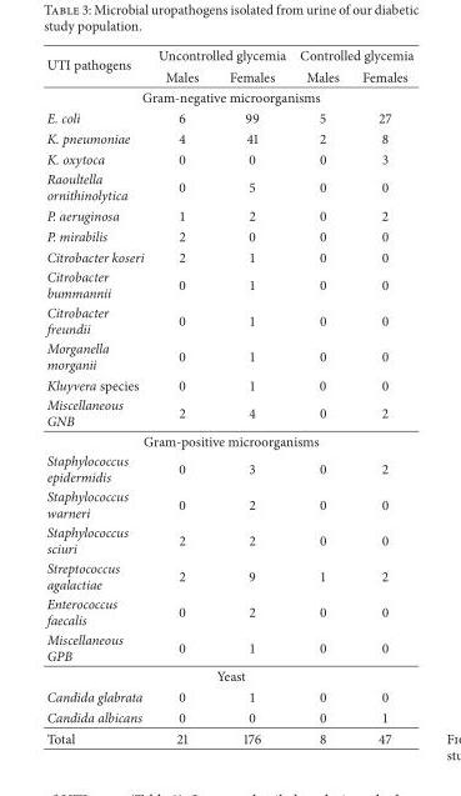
<table><thead><tr><td rowspan="2">UTI pathogens</td><td colspan="2">Uncontrolled glycemia</td><td colspan="2">Controlled glycemia</td></tr><tr><td>Males</td><td>Females</td><td>Males</td><td>Females</td></tr></thead><tbody><tr><td colspan="5">Gram-negative microorganisms</td></tr><tr><td>E. coli</td><td>6</td><td>99</td><td>5</td><td>27</td></tr><tr><td>K. pneumoniae</td><td>4</td><td>41</td><td>2</td><td>8</td></tr><tr><td>K. oxytoca</td><td>0</td><td>0</td><td>0</td><td>3</td></tr><tr><td>Raoultella ornithinolytica</td><td>0</td><td>5</td><td>0</td><td>0</td></tr><tr><td>P. aeruginosa</td><td>1</td><td>2</td><td>0</td><td>2</td></tr><tr><td>P. mirabilis</td><td>2</td><td>0</td><td>0</td><td>0</td></tr><tr><td>Citrobacter koseri</td><td>2</td><td>1</td><td>0</td><td>0</td></tr><tr><td>Citrobacter bummannii</td><td>0</td><td>1</td><td>0</td><td>0</td></tr><tr><td>Citrobacter freundii</td><td>0</td><td>1</td><td>0</td><td>0</td></tr><tr><td>Morganella morganii</td><td>0</td><td>1</td><td>0</td><td>0</td></tr><tr><td>Kluyvera species</td><td>0</td><td>1</td><td>0</td><td>0</td></tr><tr><td>Miscellaneous GNB</td><td>2</td><td>4</td><td>0</td><td>2</td></tr><tr><td colspan="5">Gram-positive microorganisms</td></tr><tr><td>Staphylococcus epidermidis</td><td>0</td><td>3</td><td>0</td><td>2</td></tr><tr><td>Staphylococcus warneri</td><td>0</td><td>2</td><td>0</td><td>0</td></tr><tr><td>Staphylococcus sciuri</td><td>2</td><td>2</td><td>0</td><td>0</td></tr><tr><td>Streptococcus agalactiae</td><td>2</td><td>9</td><td>1</td><td>2</td></tr><tr><td>Enterococcus faecalis</td><td>0</td><td>2</td><td>0</td><td>0</td></tr><tr><td>Miscellaneous GPB</td><td>0</td><td>1</td><td>0</td><td>0</td></tr><tr><td colspan="5">Yeast</td></tr><tr><td>Candida glabrata</td><td>0</td><td>1</td><td>0</td><td>0</td></tr><tr><td>Candida albicans</td><td>0</td><td>0</td><td>0</td><td>1</td></tr><tr><td>Total</td><td>21</td><td>176</td><td>8</td><td>47</td></tr></tbody></table>